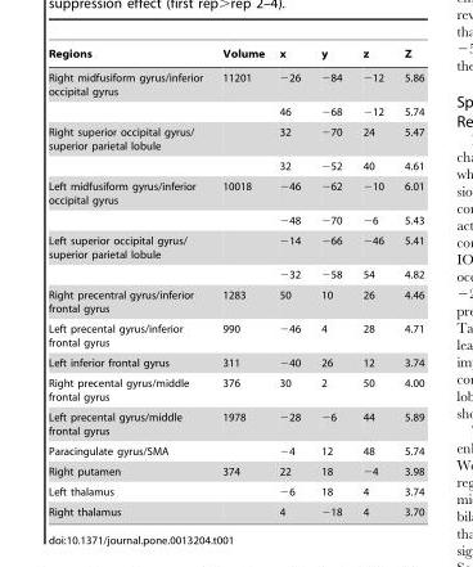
<table><thead><tr><td>Regions</td><td>Volume</td><td>x</td><td>y</td><td>z</td><td>Z</td></tr></thead><tbody><tr><td rowspan="2">Right midfusiform gyrus/inferior occipital gyrus</td><td>11201</td><td>−26</td><td>−84</td><td>−12</td><td>5.86</td></tr><tr><td></td><td>46</td><td>−68</td><td>−12</td><td>5.74</td></tr><tr><td rowspan="2">Right superior occipital gyrus/ superior parietal lobule</td><td></td><td>32</td><td>−70</td><td>24</td><td>5.47</td></tr><tr><td></td><td>32</td><td>−52</td><td>40</td><td>4.61</td></tr><tr><td rowspan="2">Left midfusiform gyrus/inferior occipital gyrus</td><td>10018</td><td>−46</td><td>−62</td><td>−10</td><td>6.01</td></tr><tr><td></td><td>−48</td><td>−70</td><td>−6</td><td>5.43</td></tr><tr><td rowspan="2">Left superior occipital gyrus/ superior parietal lobule</td><td></td><td>−14</td><td>−66</td><td>−46</td><td>5.41</td></tr><tr><td></td><td>−32</td><td>−58</td><td>54</td><td>4.82</td></tr><tr><td>Right precentral gyrus/inferior frontal gyrus</td><td>1283</td><td>50</td><td>10</td><td>26</td><td>4.46</td></tr><tr><td>Left precental gyrus/inferior frontal gyrus</td><td>990</td><td>−46</td><td>4</td><td>28</td><td>4.71</td></tr><tr><td>Left inferior frontal gyrus</td><td>311</td><td>−40</td><td>26</td><td>12</td><td>3.74</td></tr><tr><td>Right precental gyrus/middle frontal gyrus</td><td>376</td><td>30</td><td>2</td><td>50</td><td>4.00</td></tr><tr><td>Left precental gyrus/middle frontal gyrus</td><td>1978</td><td>−28</td><td>−6</td><td>44</td><td>5.89</td></tr><tr><td>Paracingulate gyrus/SMA</td><td></td><td>−4</td><td>12</td><td>48</td><td>5.74</td></tr><tr><td>Right putamen</td><td>374</td><td>22</td><td>18</td><td>−4</td><td>3.98</td></tr><tr><td>Left thalamus</td><td></td><td>−6</td><td>18</td><td>4</td><td>3.74</td></tr><tr><td>Right thalamus</td><td></td><td>4</td><td>−18</td><td>4</td><td>3.70</td></tr></tbody></table>